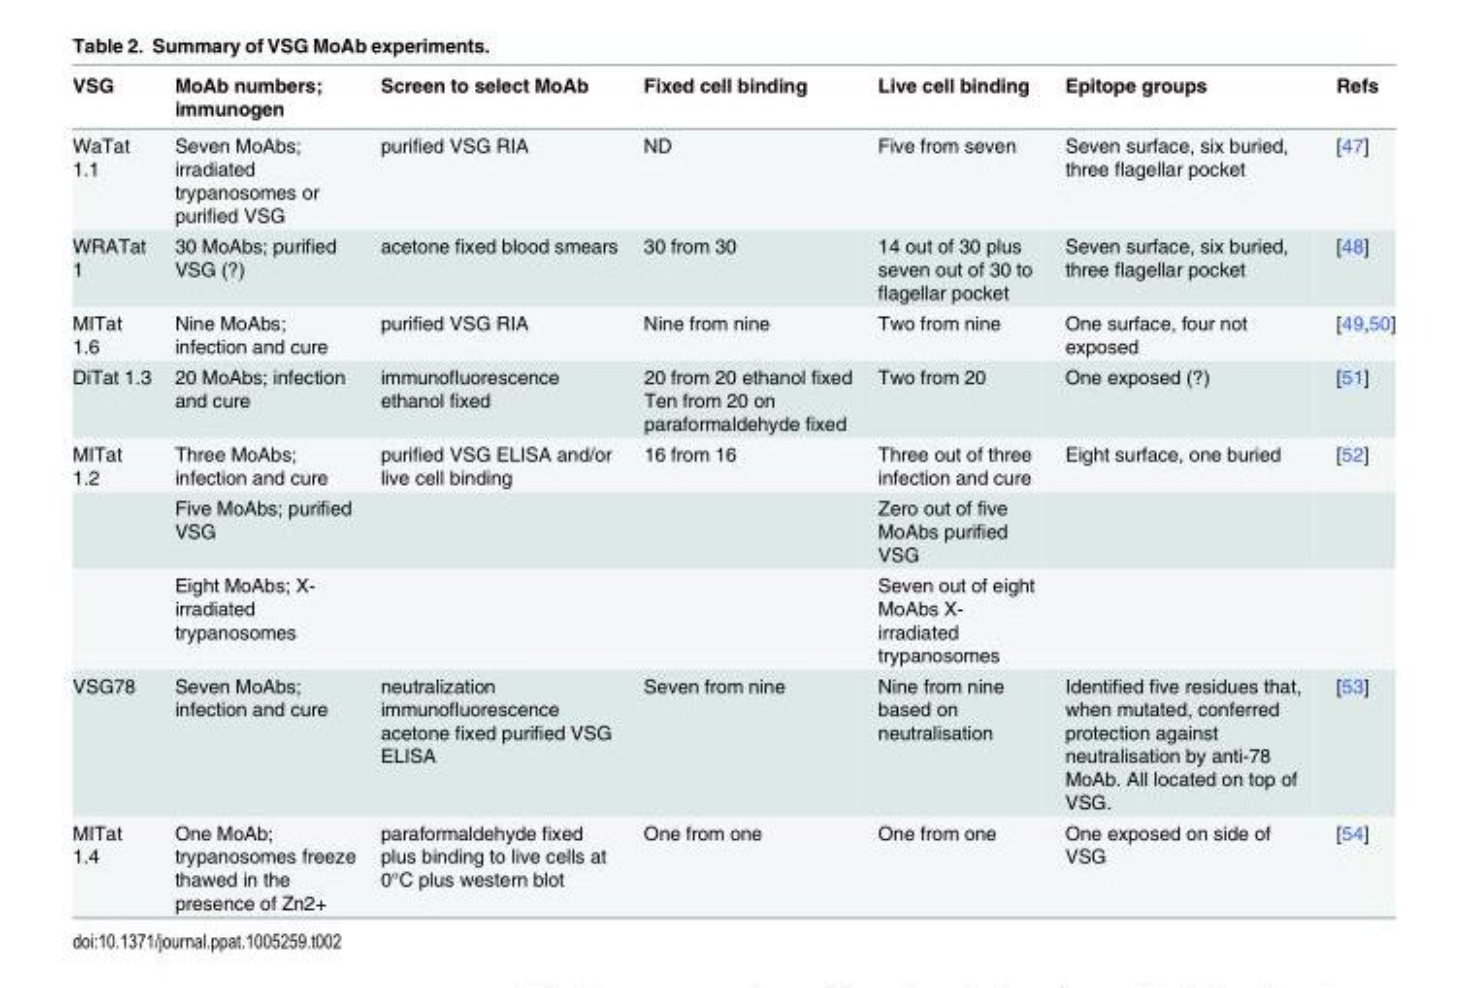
<table><thead><tr><td>VSG</td><td>MoAb numbers; immunogen</td><td>Screen to select MoAb</td><td>Fixed cell binding</td><td>Live cell binding</td><td>Epitope groups</td><td>Refs</td></tr></thead><tbody><tr><td>WaTat 1.1</td><td>Seven MoAbs; irradiated trypanosomes or purified VSG</td><td>purified VSG RIA</td><td>ND</td><td>Five from seven</td><td>Seven surface, six buried, three flagellar pocket</td><td>[47]</td></tr><tr><td>WRATat 1</td><td>30 MoAbs; purified VSG (?)</td><td>acetone fixed blood smears</td><td>30 from 30</td><td>14 out of 30 plus seven out of 30 to flagellar pocket</td><td>Seven surface, six buried, three flagellar pocket</td><td>[48]</td></tr><tr><td>MITat 1.6</td><td>Nine MoAbs; infection and cure</td><td>purified VSG RIA</td><td>Nine from nine</td><td>Two from nine</td><td>One surface, four not exposed</td><td>[49,50]</td></tr><tr><td>DiTat 1.3</td><td>20 MoAbs; infection and cure</td><td>immunofluorescence ethanol fixed</td><td>20 from 20 ethanol fixed Ten from 20 on paraformaldehyde fixed</td><td>Two from 20</td><td>One exposed (?)</td><td>[51]</td></tr><tr><td rowspan="3">MITat 1.2</td><td>Three MoAbs; infection and cure</td><td>purified VSG ELISA and/or live cell binding</td><td>16 from 16</td><td>Three out of three infection and cure</td><td>Eight surface, one buried</td><td>[52]</td></tr><tr><td>Five MoAbs; purified VSG</td><td></td><td></td><td>Zero out of five MoAbs purified VSG</td><td></td><td></td></tr><tr><td>Eight MoAbs; X- irradiated trypanosomes</td><td></td><td></td><td>Seven out of eight MoAbs X- irradiated trypanosomes</td><td></td><td></td></tr><tr><td>VSG78</td><td>Seven MoAbs; infection and cure</td><td>neutralization immunofluorescence acetone fixed purified VSG ELISA</td><td>Seven from nine</td><td>Nine from nine based on neutralisation</td><td>Identified five residues that, when mutated, conferred protection against neutralisation by anti-78 MoAb. All located on top of VSG.</td><td>[53]</td></tr><tr><td>MITat 1.4</td><td>One MoAb; trypanosomes freeze thawed in the presence of Zn2+</td><td>paraformaldehyde fixed plus binding to live cells at 0°C plus western blot</td><td>One from one</td><td>One from one</td><td>One exposed on side of VSG</td><td>[54]</td></tr></tbody></table>